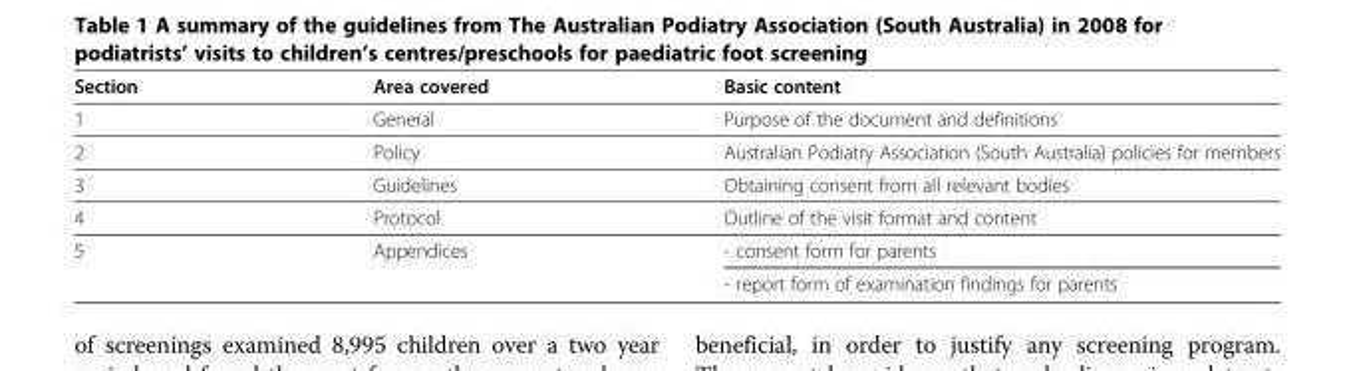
<table><thead><tr><td>Section</td><td>Area covered</td><td>Basic content</td></tr></thead><tbody><tr><td>1</td><td>General</td><td>Purpose of the document and definitions</td></tr><tr><td>2</td><td>Policy</td><td>Australian Podiatry Association (South Australia) policies for members</td></tr><tr><td>3</td><td>Guidelines</td><td>Obtaining consent from all relevant bodies</td></tr><tr><td>4</td><td>Protocol</td><td>Outline of the visit format and content</td></tr><tr><td rowspan="2">5</td><td rowspan="2">Appendices</td><td>- consent form for parents</td></tr><tr><td>- report form of examination findings for parents</td></tr></tbody></table>